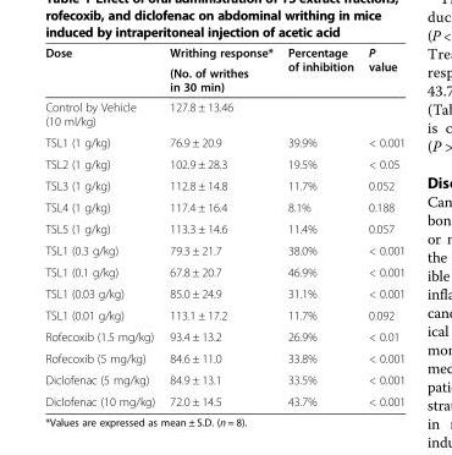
<table><thead><tr><td rowspan="2">Dose</td><td rowspan="2">Writhing response* (No. of writhes in 30 min)</td><td rowspan="2">Percentage of inhibition</td><td rowspan="2">P value</td></tr><tr></tr></thead><tbody><tr><td>Control by Vehicle (10 ml/kg)</td><td>127.8 ± 13.46</td><td></td><td></td></tr><tr><td>TSL1 (1 g/kg)</td><td>76.9 ± 20.9</td><td>39.9%</td><td>&lt; 0.001</td></tr><tr><td>TSL2 (1 g/kg)</td><td>102.9 ± 28.3</td><td>19.5%</td><td>&lt; 0.05</td></tr><tr><td>TSL3 (1 g/kg)</td><td>112.8 ± 14.8</td><td>11.7%</td><td>0.052</td></tr><tr><td>TSL4 (1 g/kg)</td><td>117.4 ± 16.4</td><td>8.1%</td><td>0.188</td></tr><tr><td>TSL5 (1 g/kg)</td><td>113.3 ± 14.6</td><td>11.4%</td><td>0.057</td></tr><tr><td>TSL1 (0.3 g/kg)</td><td>79.3 ± 21.7</td><td>38.0%</td><td>&lt; 0.001</td></tr><tr><td>TSL1 (0.1 g/kg)</td><td>67.8 ± 20.7</td><td>46.9%</td><td>&lt; 0.001</td></tr><tr><td>TSL1 (0.03 g/kg)</td><td>85.0 ± 24.9</td><td>31.1%</td><td>&lt; 0.001</td></tr><tr><td>TSL1 (0.01 g/kg)</td><td>113.1 ± 17.2</td><td>11.7%</td><td>0.092</td></tr><tr><td>Rofecoxib (1.5 mg/kg)</td><td>93.4 ± 13.2</td><td>26.9%</td><td>&lt; 0.01</td></tr><tr><td>Rofecoxib (5 mg/kg)</td><td>84.6 ± 11.0</td><td>33.8%</td><td>&lt; 0.001</td></tr><tr><td>Diclofenac (5 mg/kg)</td><td>84.9 ± 13.1</td><td>33.5%</td><td>&lt; 0.001</td></tr><tr><td>Diclofenac (10 mg/kg)</td><td>72.0 ± 14.5</td><td>43.7%</td><td>&lt; 0.001</td></tr></tbody></table>